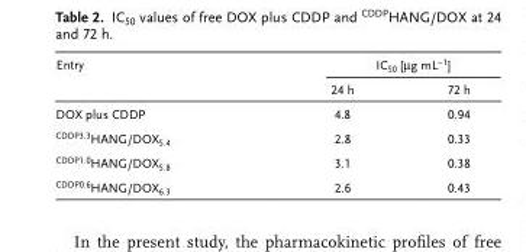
<table><thead><tr><td rowspan="2">Entry</td><td colspan="2">IC<sub>50</sub> [µg mL<sup>−1</sup>]</td></tr><tr><td>24 h</td><td>72 h</td></tr></thead><tbody><tr><td>DOX plus CDDP</td><td>4.8</td><td>0.94</td></tr><tr><td><sup>CDDP3.3</sup>HANG/DOX<sub>5.4</sub></td><td>2.8</td><td>0.33</td></tr><tr><td><sup>CDDP1.0</sup>HANG/DOX<sub>5.8</sub></td><td>3.1</td><td>0.38</td></tr><tr><td><sup>CDDP0.6</sup>HANG/DOX<sub>6.3</sub></td><td>2.6</td><td>0.43</td></tr></tbody></table>